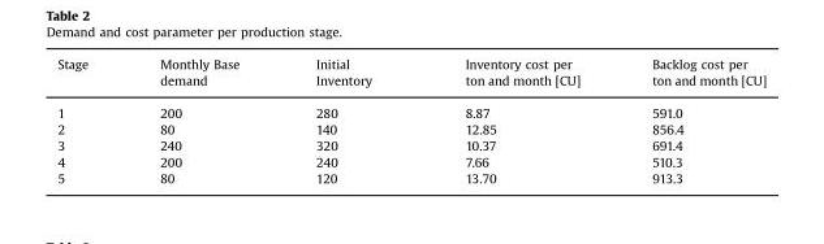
<table><tbody><tr><td>Stage</td><td>Monthly Base demand</td><td>Initial Inventory</td><td>Inventory cost per ton and month [CU]</td><td>Backlog cost per ton and month [CU]</td></tr><tr><td>1</td><td>200</td><td>280</td><td>8.87</td><td>591.0</td></tr><tr><td>2</td><td>80</td><td>140</td><td>12.85</td><td>856.4</td></tr><tr><td>3</td><td>240</td><td>320</td><td>10.37</td><td>691.4</td></tr><tr><td>4</td><td>200</td><td>240</td><td>7.66</td><td>510.3</td></tr><tr><td>5</td><td>80</td><td>120</td><td>13.70</td><td>913.3</td></tr></tbody></table>